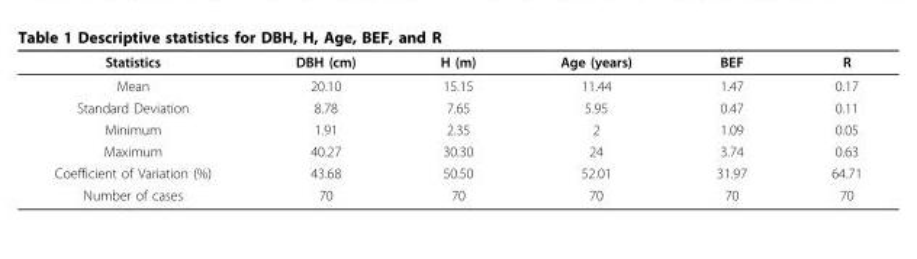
<table><thead><tr><td>Statistics</td><td>DBH (cm)</td><td>H (m)</td><td>Age (years)</td><td>BEF</td><td>R</td></tr></thead><tbody><tr><td>Mean</td><td>20.10</td><td>15.15</td><td>11.44</td><td>1.47</td><td>0.17</td></tr><tr><td>Standard Deviation</td><td>8.78</td><td>7.65</td><td>5.95</td><td>0.47</td><td>0.11</td></tr><tr><td>Minimum</td><td>1.91</td><td>2.35</td><td>2</td><td>1.09</td><td>0.05</td></tr><tr><td>Maximum</td><td>40.27</td><td>30.30</td><td>24</td><td>3.74</td><td>0.63</td></tr><tr><td>Coefficient of Variation (%)</td><td>43.68</td><td>50.50</td><td>52.01</td><td>31.97</td><td>64.71</td></tr><tr><td>Number of cases</td><td>70</td><td>70</td><td>70</td><td>70</td><td>70</td></tr></tbody></table>